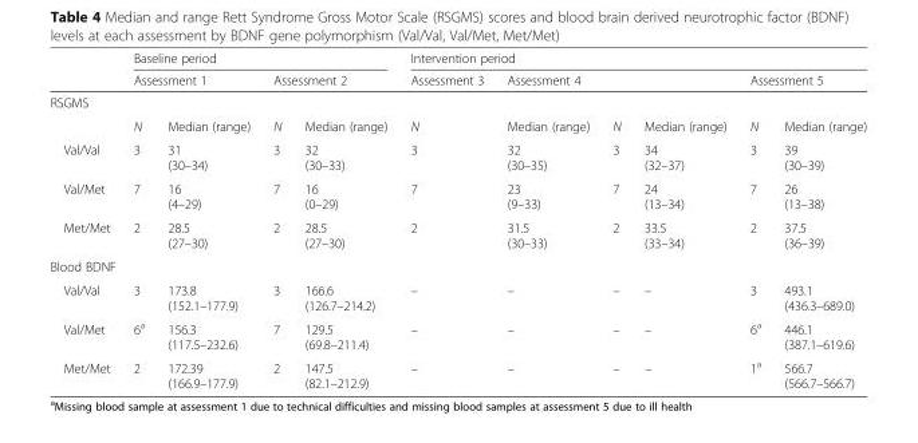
<table><thead><tr><td rowspan="2"></td><td colspan="4">Baseline period</td><td colspan="6">Intervention period</td></tr><tr><td colspan="2">Assessment 1</td><td colspan="2">Assessment 2</td><td>Assessment 3</td><td colspan="3">Assessment 4</td><td colspan="2">Assessment 5</td></tr><tr><td colspan="11">RSGMS</td></tr><tr><td></td><td>N</td><td>Median (range)</td><td>N</td><td>Median (range)</td><td>N</td><td>Median (range)</td><td>N</td><td>Median (range)</td><td>N</td><td>Median (range)</td></tr></thead><tbody><tr><td>Val/Val</td><td>3</td><td>31 (30–34)</td><td>3</td><td>32 (30–33)</td><td>3</td><td>32 (30–35)</td><td>3</td><td>34 (32–37)</td><td>3</td><td>39 (30–39)</td></tr><tr><td>Val/Met</td><td>7</td><td>16 (4–29)</td><td>7</td><td>16 (0–29)</td><td>7</td><td>23 (9–33)</td><td>7</td><td>24 (13–34)</td><td>7</td><td>26 (13–38)</td></tr><tr><td>Met/Met</td><td>2</td><td>28.5 (27–30)</td><td>2</td><td>28.5 (27–30)</td><td>2</td><td>31.5 (30–33)</td><td>2</td><td>33.5 (33–34)</td><td>2</td><td>37.5 (36–39)</td></tr><tr><td colspan="11">Blood BDNF</td></tr><tr><td>Val/Val</td><td>3</td><td>173.8 (152.1–177.9)</td><td>3</td><td>166.6 (126.7–214.2)</td><td>–</td><td>–</td><td>–</td><td>–</td><td>3</td><td>493.1 (436.3–689.0)</td></tr><tr><td>Val/Met</td><td>6<sup>a</sup></td><td>156.3 (117.5–232.6)</td><td>7</td><td>129.5 (69.8–211.4)</td><td>–</td><td>–</td><td>–</td><td>–</td><td>6<sup>a</sup></td><td>446.1 (387.1–619.6)</td></tr><tr><td>Met/Met</td><td>2</td><td>172.39 (166.9–177.9)</td><td>2</td><td>147.5 (82.1–212.9)</td><td>–</td><td>–</td><td>–</td><td>–</td><td>1<sup>a</sup></td><td>566.7 (566.7–566.7)</td></tr></tbody></table>